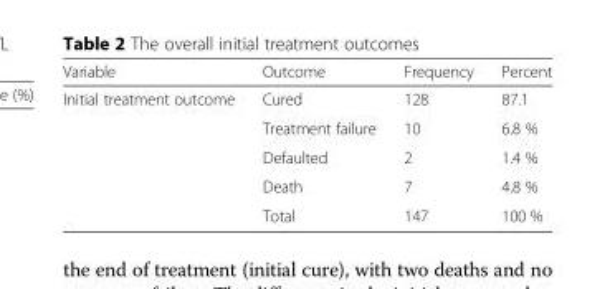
<table><thead><tr><td>Variable</td><td>Outcome</td><td>Frequency</td><td>Percent</td></tr></thead><tbody><tr><td rowspan="5">Initial treatment outcome</td><td>Cured</td><td>128</td><td>87.1</td></tr><tr><td>Treatment failure</td><td>10</td><td>6.8 %</td></tr><tr><td>Defaulted</td><td>2</td><td>1.4 %</td></tr><tr><td>Death</td><td>7</td><td>4.8 %</td></tr><tr><td>Total</td><td>147</td><td>100 %</td></tr></tbody></table>